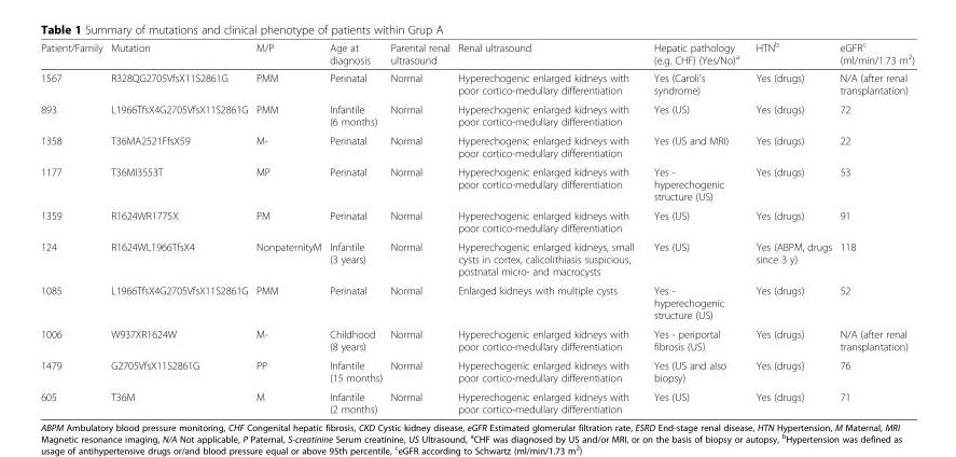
<table><thead><tr><td>Patient/Family</td><td>Mutation</td><td>M/P</td><td>Age at diagnosis</td><td>Parental renal ultrasound</td><td>Renal ultrasound</td><td>Hepatic pathology (e.g. CHF) (Yes/No)<sup>a</sup></td><td>HTN<sup>b</sup></td><td>eGFR<sup>c</sup> (ml/min/1.73 m<sup>2</sup>)</td></tr></thead><tbody><tr><td>1567</td><td>R328QG2705VfsX11S2861G</td><td>PMM</td><td>Perinatal</td><td>Normal</td><td>Hyperechogenic enlarged kidneys with poor cortico-medullary differentiation</td><td>Yes (Caroli’s syndrome)</td><td>Yes (drugs)</td><td>N/A (after renal transplantation)</td></tr><tr><td>893</td><td>L1966TfsX4G2705VfsX11S2861G</td><td>PMM</td><td>Infantile (6 months)</td><td>Normal</td><td>Hyperechogenic enlarged kidneys with poor cortico-medullary differentiation</td><td>Yes (US)</td><td>Yes (drugs)</td><td>72</td></tr><tr><td>1358</td><td>T36MA2521FfsX59</td><td>M-</td><td>Perinatal</td><td>Normal</td><td>Hyperechogenic enlarged kidneys with poor cortico-medullary differentiation</td><td>Yes (US and MRI)</td><td>Yes (drugs)</td><td>22</td></tr><tr><td>1177</td><td>T36MI3553T</td><td>MP</td><td>Perinatal</td><td>Normal</td><td>Hyperechogenic enlarged kidneys with poor cortico-medullary differentiation</td><td>Yes - hyperechogenic structure (US)</td><td>Yes (drugs)</td><td>53</td></tr><tr><td>1359</td><td>R1624WR1775X</td><td>PM</td><td>Perinatal</td><td>Normal</td><td>Hyperechogenic enlarged kidneys with poor cortico-medullary differentiation</td><td>Yes (US)</td><td>Yes (drugs)</td><td>91</td></tr><tr><td>124</td><td>R1624WL1966TfsX4</td><td>NonpaternityM</td><td>Infantile (3 years)</td><td>Normal</td><td>Hyperechogenic enlarged kidneys, small cysts in cortex, calicolithiasis suspicious, postnatal micro- and macrocysts</td><td>Yes (US)</td><td>Yes (ABPM, drugs since 3 y)</td><td>118</td></tr><tr><td>1085</td><td>L1966TfsX4G2705VfsX11S2861G</td><td>PMM</td><td>Perinatal</td><td>Normal</td><td>Enlarged kidneys with multiple cysts</td><td>Yes - hyperechogenic structure (US)</td><td>Yes (drugs)</td><td>52</td></tr><tr><td>1006</td><td>W937XR1624W</td><td>M-</td><td>Childhood (8 years)</td><td>Normal</td><td>Hyperechogenic enlarged kidneys with poor cortico-medullary differentiation</td><td>Yes - periportal fibrosis (US)</td><td>Yes (drugs)</td><td>N/A (after renal transplantation)</td></tr><tr><td>1479</td><td>G2705VfsX11S2861G</td><td>PP</td><td>Infantile (15 months)</td><td>Normal</td><td>Hyperechogenic enlarged kidneys with poor cortico-medullary differentiation</td><td>Yes (US and also biopsy)</td><td>Yes (drugs)</td><td>76</td></tr><tr><td>605</td><td>T36M</td><td>M</td><td>Infantile (2 months)</td><td>Normal</td><td>Hyperechogenic enlarged kidneys with poor cortico-medullary differentiation</td><td>Yes (US)</td><td>Yes (drugs)</td><td>71</td></tr></tbody></table>